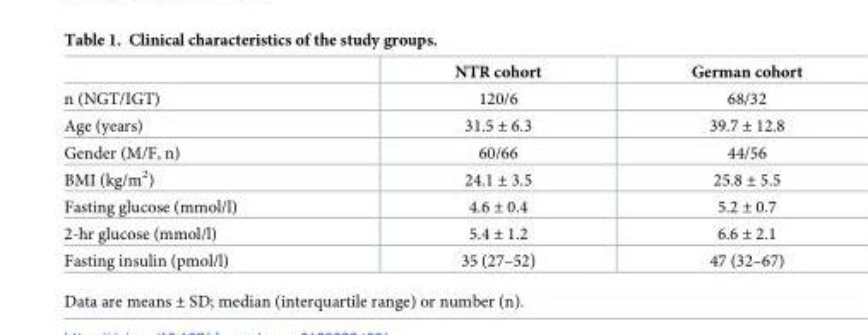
<table><thead><tr><td></td><td>NTR cohort</td><td>German cohort</td></tr></thead><tbody><tr><td>n (NGT/IGT)</td><td>120/6</td><td>68/32</td></tr><tr><td>Age (years)</td><td>31.5 ± 6.3</td><td>39.7 ± 12.8</td></tr><tr><td>Gender (M/F, n)</td><td>60/66</td><td>44/56</td></tr><tr><td>BMI (kg/m<sup>2</sup>)</td><td>24.1 ± 3.5</td><td>25.8 ± 5.5</td></tr><tr><td>Fasting glucose (mmol/l)</td><td>4.6 ± 0.4</td><td>5.2 ± 0.7</td></tr><tr><td>2-hr glucose (mmol/l)</td><td>5.4 ± 1.2</td><td>6.6 ± 2.1</td></tr><tr><td>Fasting insulin (pmol/l)</td><td>35 (27–52)</td><td>47 (32–67)</td></tr></tbody></table>